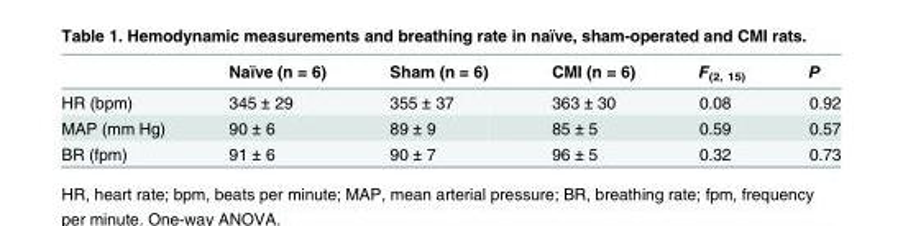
<table><thead><tr><td></td><td>Naïve (n = 6)</td><td>Sham (n = 6)</td><td>CMI (n = 6)</td><td>F<sub>(2, 15)</sub></td><td>P</td></tr></thead><tbody><tr><td>HR (bpm)</td><td>345 ± 29</td><td>355 ± 37</td><td>363 ± 30</td><td>0.08</td><td>0.92</td></tr><tr><td>MAP (mm Hg)</td><td>90 ± 6</td><td>89 ± 9</td><td>85 ± 5</td><td>0.59</td><td>0.57</td></tr><tr><td>BR (fpm)</td><td>91 ± 6</td><td>90 ± 7</td><td>96 ± 5</td><td>0.32</td><td>0.73</td></tr></tbody></table>